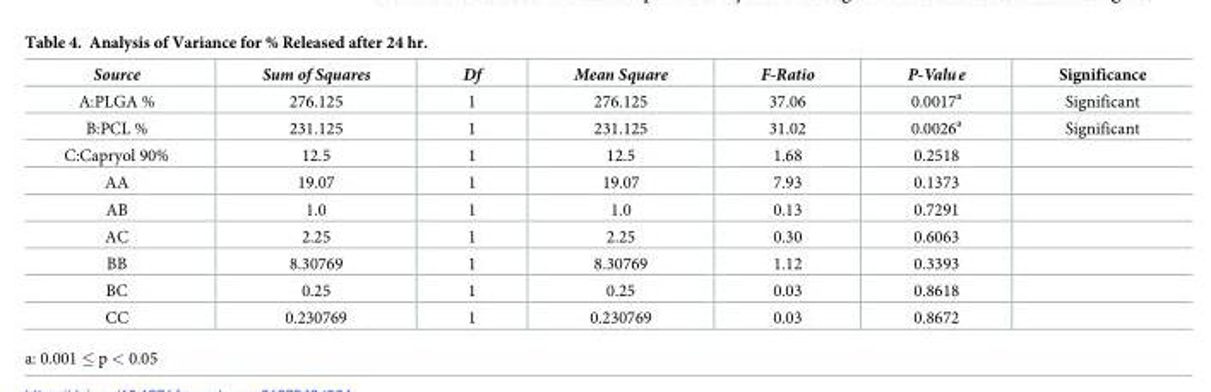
<table><thead><tr><td>Source</td><td>Sum of Squares</td><td>Df</td><td>Mean Square</td><td>F-Ratio</td><td>P-Value</td><td>Significance</td></tr></thead><tbody><tr><td>A:PLGA %</td><td>276.125</td><td>1</td><td>276.125</td><td>37.06</td><td>0.0017<sup>a</sup></td><td>Significant</td></tr><tr><td>B:PCL %</td><td>231.125</td><td>1</td><td>231.125</td><td>31.02</td><td>0.0026<sup>a</sup></td><td>Significant</td></tr><tr><td>C:Capryol 90%</td><td>12.5</td><td>1</td><td>12.5</td><td>1.68</td><td>0.2518</td><td></td></tr><tr><td>AA</td><td>19.07</td><td>1</td><td>19.07</td><td>7.93</td><td>0.1373</td><td></td></tr><tr><td>AB</td><td>1.0</td><td>1</td><td>1.0</td><td>0.13</td><td>0.7291</td><td></td></tr><tr><td>AC</td><td>2.25</td><td>1</td><td>2.25</td><td>0.30</td><td>0.6063</td><td></td></tr><tr><td>BB</td><td>8.30769</td><td>1</td><td>8.30769</td><td>1.12</td><td>0.3393</td><td></td></tr><tr><td>BC</td><td>0.25</td><td>1</td><td>0.25</td><td>0.03</td><td>0.8618</td><td></td></tr><tr><td>CC</td><td>0.230769</td><td>1</td><td>0.230769</td><td>0.03</td><td>0.8672</td><td></td></tr></tbody></table>